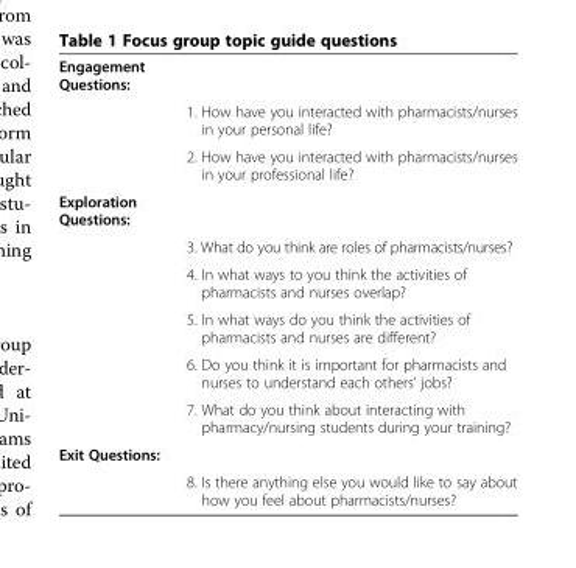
<table><tbody><tr><td colspan="2">Engagement Questions:</td></tr><tr><td></td><td>1. How have you interacted with pharmacists/nurses in your personal life?</td></tr><tr><td></td><td>2. How have you interacted with pharmacists/nurses in your professional life?</td></tr><tr><td colspan="2">Exploration Questions:</td></tr><tr><td></td><td>3. What do you think are roles of pharmacists/nurses?</td></tr><tr><td></td><td>4. In what ways to you think the activities of pharmacists and nurses overlap?</td></tr><tr><td></td><td>5. In what ways do you think the activities of pharmacists and nurses are different?</td></tr><tr><td></td><td>6. Do you think it is important for pharmacists and nurses to understand each others’ jobs?</td></tr><tr><td></td><td>7. What do you think about interacting with pharmacy/nursing students during your training?</td></tr><tr><td colspan="2">Exit Questions:</td></tr><tr><td></td><td>8. Is there anything else you would like to say about how you feel about pharmacists/nurses?</td></tr></tbody></table>